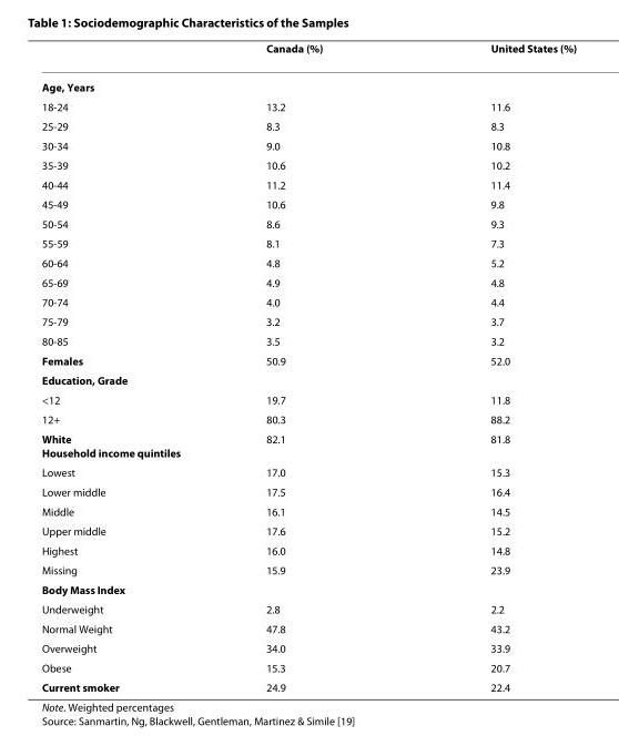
<table><thead><tr><td></td><td>Canada (%)</td><td>United States (%)</td></tr></thead><tbody><tr><td colspan="3">Age, Years</td></tr><tr><td>18-24</td><td>13.2</td><td>11.6</td></tr><tr><td>25-29</td><td>8.3</td><td>8.3</td></tr><tr><td>30-34</td><td>9.0</td><td>10.8</td></tr><tr><td>35-39</td><td>10.6</td><td>10.2</td></tr><tr><td>40-44</td><td>11.2</td><td>11.4</td></tr><tr><td>45-49</td><td>10.6</td><td>9.8</td></tr><tr><td>50-54</td><td>8.6</td><td>9.3</td></tr><tr><td>55-59</td><td>8.1</td><td>7.3</td></tr><tr><td>60-64</td><td>4.8</td><td>5.2</td></tr><tr><td>65-69</td><td>4.9</td><td>4.8</td></tr><tr><td>70-74</td><td>4.0</td><td>4.4</td></tr><tr><td>75-79</td><td>3.2</td><td>3.7</td></tr><tr><td>80-85</td><td>3.5</td><td>3.2</td></tr><tr><td>Females</td><td>50.9</td><td>52.0</td></tr><tr><td colspan="3">Education, Grade</td></tr><tr><td>&lt;12</td><td>19.7</td><td>11.8</td></tr><tr><td>12+</td><td>80.3</td><td>88.2</td></tr><tr><td>White Household income quintiles</td><td>82.1</td><td>81.8</td></tr><tr><td>Lowest</td><td>17.0</td><td>15.3</td></tr><tr><td>Lower middle</td><td>17.5</td><td>16.4</td></tr><tr><td>Middle</td><td>16.1</td><td>14.5</td></tr><tr><td>Upper middle</td><td>17.6</td><td>15.2</td></tr><tr><td>Highest</td><td>16.0</td><td>14.8</td></tr><tr><td>Missing</td><td>15.9</td><td>23.9</td></tr><tr><td colspan="3">Body Mass Index</td></tr><tr><td>Underweight</td><td>2.8</td><td>2.2</td></tr><tr><td>Normal Weight</td><td>47.8</td><td>43.2</td></tr><tr><td>Overweight</td><td>34.0</td><td>33.9</td></tr><tr><td>Obese</td><td>15.3</td><td>20.7</td></tr><tr><td>Current smoker</td><td>24.9</td><td>22.4</td></tr></tbody></table>